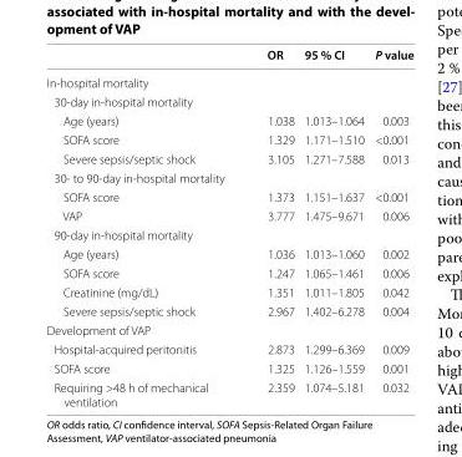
<table><thead><tr><td></td><td>OR</td><td>95 % CI</td><td>P value</td></tr></thead><tbody><tr><td colspan="4">In‑hospital mortality</td></tr><tr><td colspan="4">30‑day in‑hospital mortality</td></tr><tr><td>Age (years)</td><td>1.038</td><td>1.013–1.064</td><td>0.003</td></tr><tr><td>SOFA score</td><td>1.329</td><td>1.171–1.510</td><td>&lt;0.001</td></tr><tr><td>Severe sepsis/septic shock</td><td>3.105</td><td>1.271–7.588</td><td>0.013</td></tr><tr><td colspan="4">30‑ to 90‑day in‑hospital mortality</td></tr><tr><td>SOFA score</td><td>1.373</td><td>1.151–1.637</td><td>&lt;0.001</td></tr><tr><td>VAP</td><td>3.777</td><td>1.475–9.671</td><td>0.006</td></tr><tr><td colspan="4">90‑day in‑hospital mortality</td></tr><tr><td>Age (years)</td><td>1.036</td><td>1.013–1.060</td><td>0.002</td></tr><tr><td>SOFA score</td><td>1.247</td><td>1.065–1.461</td><td>0.006</td></tr><tr><td>Creatinine (mg/dL)</td><td>1.351</td><td>1.011–1.805</td><td>0.042</td></tr><tr><td>Severe sepsis/septic shock</td><td>2.967</td><td>1.402–6.278</td><td>0.004</td></tr><tr><td colspan="4">Development of VAP</td></tr><tr><td>Hospital‑acquired peritonitis</td><td>2.873</td><td>1.299–6.369</td><td>0.009</td></tr><tr><td>SOFA score</td><td>1.325</td><td>1.126–1.559</td><td>0.001</td></tr><tr><td>Requiring &gt;48 h of mechanical ventilation</td><td>2.359</td><td>1.074–5.181</td><td>0.032</td></tr></tbody></table>